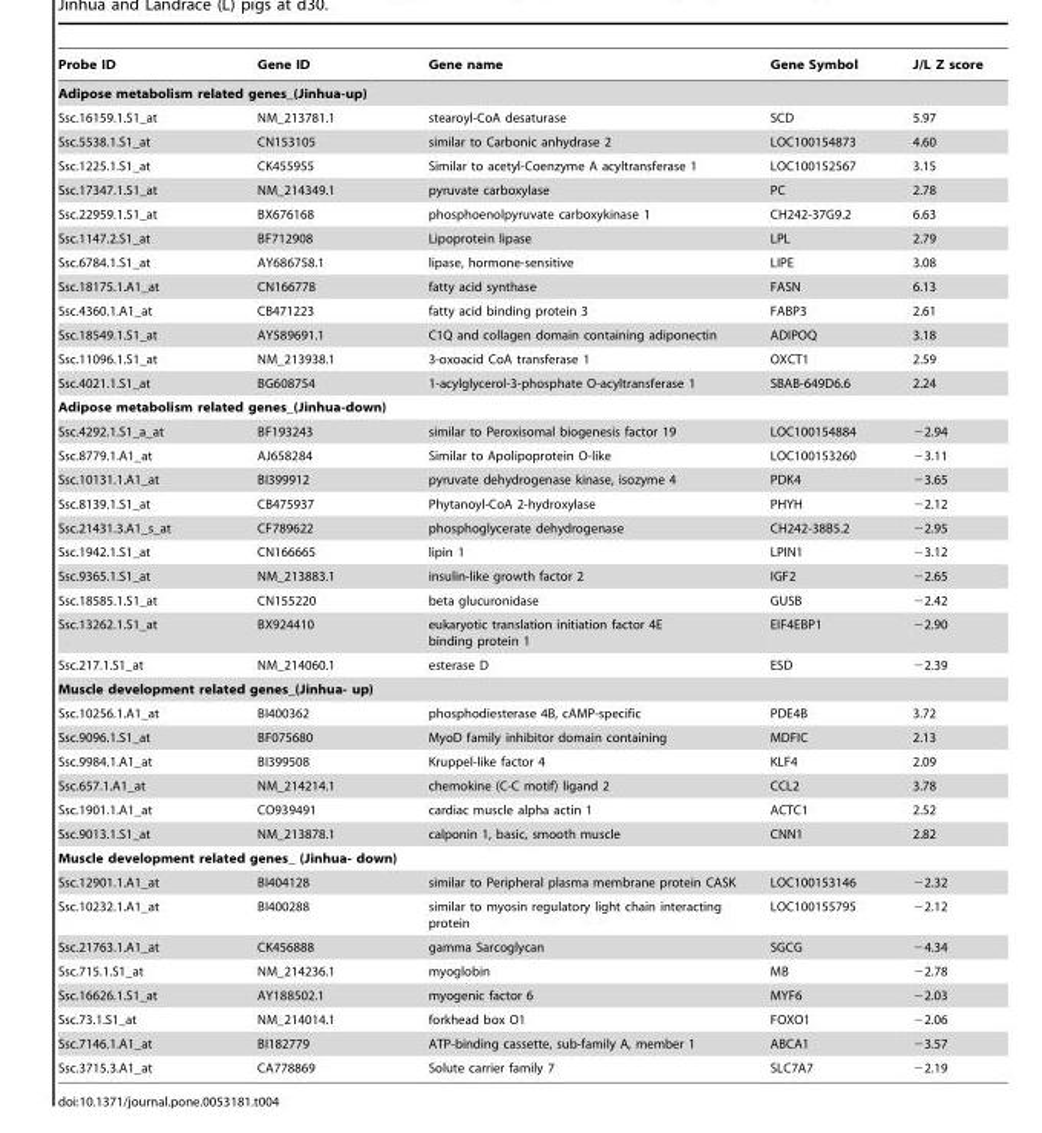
<table><thead><tr><td>Probe ID</td><td>Gene ID</td><td>Gene name</td><td>Gene Symbol</td><td>J/L Z score</td></tr></thead><tbody><tr><td colspan="5">Adipose metabolism related genes_(Jinhua-up)</td></tr><tr><td>Ssc.16159.1.S1_at</td><td>NM_213781.1</td><td>stearoyl-CoA desaturase</td><td>SCD</td><td>5.97</td></tr><tr><td>Ssc.5538.1.S1_at</td><td>CN153105</td><td>similar to Carbonic anhydrase 2</td><td>LOC100154873</td><td>4.60</td></tr><tr><td>Ssc.1225.1.S1_at</td><td>CK455955</td><td>Similar to acetyl-Coenzyme A acyltransferase 1</td><td>LOC100152567</td><td>3.15</td></tr><tr><td>Ssc.17347.1.S1_at</td><td>NM_214349.1</td><td>pyruvate carboxylase</td><td>PC</td><td>2.78</td></tr><tr><td>Ssc.22959.1.S1_at</td><td>BX676168</td><td>phosphoenolpyruvate carboxykinase 1</td><td>CH242-37G9.2</td><td>6.63</td></tr><tr><td>Ssc.1147.2.S1_at</td><td>BF712908</td><td>Lipoprotein lipase</td><td>LPL</td><td>2.79</td></tr><tr><td>Ssc.6784.1.S1_at</td><td>AY686758.1</td><td>lipase, hormone-sensitive</td><td>LIPE</td><td>3.08</td></tr><tr><td>Ssc.18175.1.A1_at</td><td>CN166778</td><td>fatty acid synthase</td><td>FASN</td><td>6.13</td></tr><tr><td>Ssc.4360.1.A1_at</td><td>CB471223</td><td>fatty acid binding protein 3</td><td>FABP3</td><td>2.61</td></tr><tr><td>Ssc.18549.1.S1_at</td><td>AY589691.1</td><td>C1Q and collagen domain containing adiponectin</td><td>ADIPOQ</td><td>3.18</td></tr><tr><td>Ssc.11096.1.S1_at</td><td>NM_213938.1</td><td>3-oxoacid CoA transferase 1</td><td>OXCT1</td><td>2.59</td></tr><tr><td>Ssc.4021.1.S1_at</td><td>BG608754</td><td>1-acylglycerol-3-phosphate O-acyltransferase 1</td><td>SBAB-649D6.6</td><td>2.24</td></tr><tr><td colspan="5">Adipose metabolism related genes_(Jinhua-down)</td></tr><tr><td>Ssc.4292.1.S1_a_at</td><td>BF193243</td><td>similar to Peroxisomal biogenesis factor 19</td><td>LOC100154884</td><td>−2.94</td></tr><tr><td>Ssc.8779.1.A1_at</td><td>AJ658284</td><td>Similar to Apolipoprotein O-like</td><td>LOC100153260</td><td>−3.11</td></tr><tr><td>Ssc.10131.1.A1_at</td><td>BI399912</td><td>pyruvate dehydrogenase kinase, isozyme 4</td><td>PDK4</td><td>−3.65</td></tr><tr><td>Ssc.8139.1.S1_at</td><td>CB475937</td><td>Phytanoyl-CoA 2-hydroxylase</td><td>PHYH</td><td>−2.12</td></tr><tr><td>Ssc.21431.3.A1_s_at</td><td>CF789622</td><td>phosphoglycerate dehydrogenase</td><td>CH242-38B5.2</td><td>−2.95</td></tr><tr><td>Ssc.1942.1.S1_at</td><td>CN166665</td><td>lipin 1</td><td>LPIN1</td><td>−3.12</td></tr><tr><td>Ssc.9365.1.S1_at</td><td>NM_213883.1</td><td>insulin-like growth factor 2</td><td>IGF2</td><td>−2.65</td></tr><tr><td>Ssc.18585.1.S1_at</td><td>CN155220</td><td>beta glucuronidase</td><td>GUSB</td><td>−2.42</td></tr><tr><td>Ssc.13262.1.S1_at</td><td>BX924410</td><td>eukaryotic translation initiation factor 4E binding protein 1</td><td>EIF4EBP1</td><td>−2.90</td></tr><tr><td>Ssc.217.1.S1_at</td><td>NM_214060.1</td><td>esterase D</td><td>ESD</td><td>−2.39</td></tr><tr><td colspan="5">Muscle development related genes_(Jinhua- up)</td></tr><tr><td>Ssc.10256.1.A1_at</td><td>BI400362</td><td>phosphodiesterase 4B, cAMP-specific</td><td>PDE4B</td><td>3.72</td></tr><tr><td>Ssc.9096.1.S1_at</td><td>BF075680</td><td>MyoD family inhibitor domain containing</td><td>MDFIC</td><td>2.13</td></tr><tr><td>Ssc.9984.1.A1_at</td><td>BI399508</td><td>Kruppel-like factor 4</td><td>KLF4</td><td>2.09</td></tr><tr><td>Ssc.657.1.A1_at</td><td>NM_214214.1</td><td>chemokine (C-C motif) ligand 2</td><td>CCL2</td><td>3.78</td></tr><tr><td>Ssc.1901.1.A1_at</td><td>CO939491</td><td>cardiac muscle alpha actin 1</td><td>ACTC1</td><td>2.52</td></tr><tr><td>Ssc.9013.1.S1_at</td><td>NM_213878.1</td><td>calponin 1, basic, smooth muscle</td><td>CNN1</td><td>2.82</td></tr><tr><td colspan="5">Muscle development related genes_ (Jinhua- down)</td></tr><tr><td>Ssc.12901.1.A1_at</td><td>BI404128</td><td>similar to Peripheral plasma membrane protein CASK</td><td>LOC100153146</td><td>−2.32</td></tr><tr><td>Ssc.10232.1.A1_at</td><td>BI400288</td><td>similar to myosin regulatory light chain interacting protein</td><td>LOC100155795</td><td>−2.12</td></tr><tr><td>Ssc.21763.1.A1_at</td><td>CK456888</td><td>gamma Sarcoglycan</td><td>SGCG</td><td>−4.34</td></tr><tr><td>Ssc.715.1.S1_at</td><td>NM_214236.1</td><td>myoglobin</td><td>MB</td><td>−2.78</td></tr><tr><td>Ssc.16626.1.S1_at</td><td>AY188502.1</td><td>myogenic factor 6</td><td>MYF6</td><td>−2.03</td></tr><tr><td>Ssc.73.1.S1_at</td><td>NM_214014.1</td><td>forkhead box O1</td><td>FOXO1</td><td>−2.06</td></tr><tr><td>Ssc.7146.1.A1_at</td><td>BI182779</td><td>ATP-binding cassette, sub-family A, member 1</td><td>ABCA1</td><td>−3.57</td></tr><tr><td>Ssc.3715.3.A1_at</td><td>CA778869</td><td>Solute carrier family 7</td><td>SLC7A7</td><td>−2.19</td></tr></tbody></table>